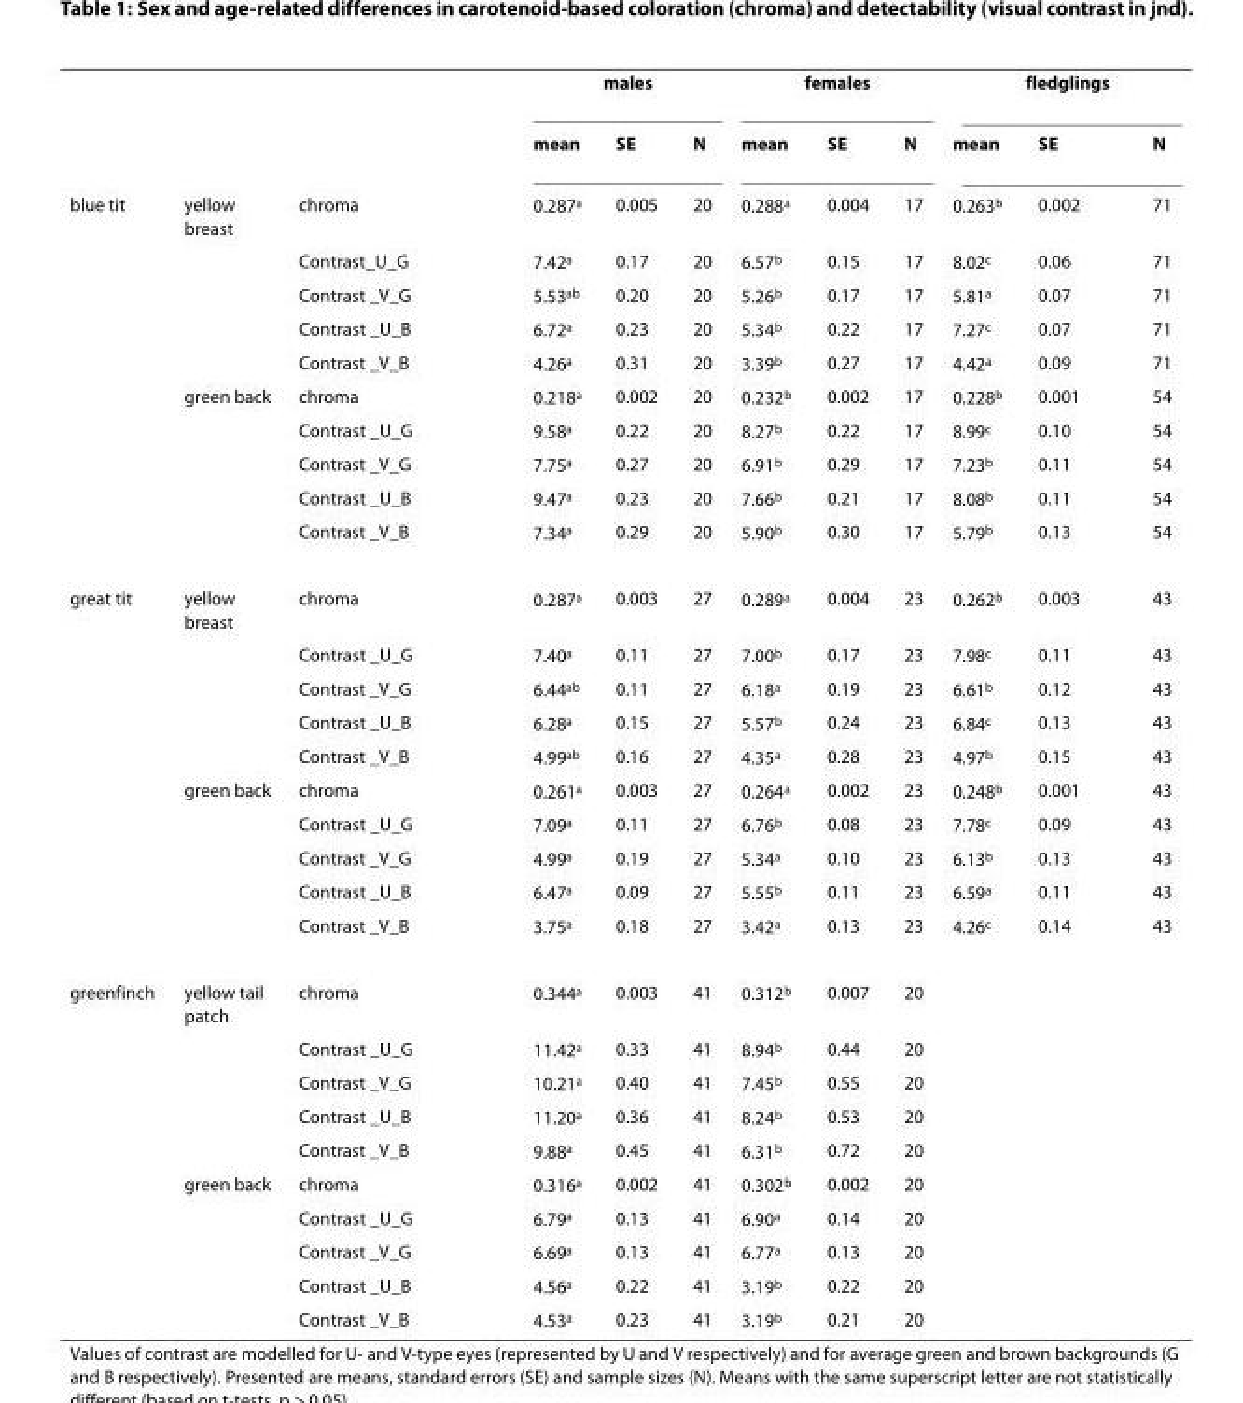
<table><thead><tr><td rowspan="2"></td><td rowspan="2"></td><td rowspan="2"></td><td colspan="3">males</td><td colspan="3">females</td><td colspan="3">fledglings</td></tr><tr><td>mean</td><td>SE</td><td>N</td><td>mean</td><td>SE</td><td>N</td><td>mean</td><td>SE</td><td>N</td></tr></thead><tbody><tr><td rowspan="10">blue tit</td><td>yellow breast</td><td>chroma</td><td>0.287<sup>a</sup></td><td>0.005</td><td>20</td><td>0.288<sup>a</sup></td><td>0.004</td><td>17</td><td>0.263<sup>b</sup></td><td>0.002</td><td>71</td></tr><tr><td></td><td>Contrast_U_G</td><td>7.42<sup>a</sup></td><td>0.17</td><td>20</td><td>6.57<sup>b</sup></td><td>0.15</td><td>17</td><td>8.02<sup>c</sup></td><td>0.06</td><td>71</td></tr><tr><td></td><td>Contrast _V_G</td><td>5.53<sup>ab</sup></td><td>0.20</td><td>20</td><td>5.26<sup>b</sup></td><td>0.17</td><td>17</td><td>5.81<sup>a</sup></td><td>0.07</td><td>71</td></tr><tr><td></td><td>Contrast _U_B</td><td>6.72<sup>a</sup></td><td>0.23</td><td>20</td><td>5.34<sup>b</sup></td><td>0.22</td><td>17</td><td>7.27<sup>c</sup></td><td>0.07</td><td>71</td></tr><tr><td></td><td>Contrast _V_B</td><td>4.26<sup>a</sup></td><td>0.31</td><td>20</td><td>3.39<sup>b</sup></td><td>0.27</td><td>17</td><td>4.42<sup>a</sup></td><td>0.09</td><td>71</td></tr><tr><td>green back</td><td>chroma</td><td>0.218<sup>a</sup></td><td>0.002</td><td>20</td><td>0.232<sup>b</sup></td><td>0.002</td><td>17</td><td>0.228<sup>b</sup></td><td>0.001</td><td>54</td></tr><tr><td></td><td>Contrast _U_G</td><td>9.58<sup>a</sup></td><td>0.22</td><td>20</td><td>8.27<sup>b</sup></td><td>0.22</td><td>17</td><td>8.99<sup>c</sup></td><td>0.10</td><td>54</td></tr><tr><td></td><td>Contrast _V_G</td><td>7.75<sup>a</sup></td><td>0.27</td><td>20</td><td>6.91<sup>b</sup></td><td>0.29</td><td>17</td><td>7.23<sup>b</sup></td><td>0.11</td><td>54</td></tr><tr><td></td><td>Contrast _U_B</td><td>9.47<sup>a</sup></td><td>0.23</td><td>20</td><td>7.66<sup>b</sup></td><td>0.21</td><td>17</td><td>8.08<sup>b</sup></td><td>0.11</td><td>54</td></tr><tr><td></td><td>Contrast _V_B</td><td>7.34<sup>a</sup></td><td>0.29</td><td>20</td><td>5.90<sup>b</sup></td><td>0.30</td><td>17</td><td>5.79<sup>b</sup></td><td>0.13</td><td>54</td></tr><tr><td rowspan="10">great tit</td><td>yellow breast</td><td>chroma</td><td>0.287<sup>a</sup></td><td>0.003</td><td>27</td><td>0.289<sup>a</sup></td><td>0.004</td><td>23</td><td>0.262<sup>b</sup></td><td>0.003</td><td>43</td></tr><tr><td></td><td>Contrast _U_G</td><td>7.40<sup>a</sup></td><td>0.11</td><td>27</td><td>7.00<sup>b</sup></td><td>0.17</td><td>23</td><td>7.98<sup>c</sup></td><td>0.11</td><td>43</td></tr><tr><td></td><td>Contrast _V_G</td><td>6.44<sup>ab</sup></td><td>0.11</td><td>27</td><td>6.18<sup>a</sup></td><td>0.19</td><td>23</td><td>6.61<sup>b</sup></td><td>0.12</td><td>43</td></tr><tr><td></td><td>Contrast _U_B</td><td>6.28<sup>a</sup></td><td>0.15</td><td>27</td><td>5.57<sup>b</sup></td><td>0.24</td><td>23</td><td>6.84<sup>c</sup></td><td>0.13</td><td>43</td></tr><tr><td></td><td>Contrast _V_B</td><td>4.99<sup>ab</sup></td><td>0.16</td><td>27</td><td>4.35<sup>a</sup></td><td>0.28</td><td>23</td><td>4.97<sup>b</sup></td><td>0.15</td><td>43</td></tr><tr><td>green back</td><td>chroma</td><td>0.261<sup>a</sup></td><td>0.003</td><td>27</td><td>0.264<sup>a</sup></td><td>0.002</td><td>23</td><td>0.248<sup>b</sup></td><td>0.001</td><td>43</td></tr><tr><td></td><td>Contrast _U_G</td><td>7.09<sup>a</sup></td><td>0.11</td><td>27</td><td>6.76<sup>b</sup></td><td>0.08</td><td>23</td><td>7.78<sup>c</sup></td><td>0.09</td><td>43</td></tr><tr><td></td><td>Contrast _V_G</td><td>4.99<sup>a</sup></td><td>0.19</td><td>27</td><td>5.34<sup>a</sup></td><td>0.10</td><td>23</td><td>6.13<sup>b</sup></td><td>0.13</td><td>43</td></tr><tr><td></td><td>Contrast _U_B</td><td>6.47<sup>a</sup></td><td>0.09</td><td>27</td><td>5.55<sup>b</sup></td><td>0.11</td><td>23</td><td>6.59<sup>a</sup></td><td>0.11</td><td>43</td></tr><tr><td></td><td>Contrast _V_B</td><td>3.75<sup>a</sup></td><td>0.18</td><td>27</td><td>3.42<sup>a</sup></td><td>0.13</td><td>23</td><td>4.26<sup>c</sup></td><td>0.14</td><td>43</td></tr><tr><td rowspan="10">greenfinch</td><td>yellow tail patch</td><td>chroma</td><td>0.344<sup>a</sup></td><td>0.003</td><td>41</td><td>0.312<sup>b</sup></td><td>0.007</td><td>20</td><td></td><td></td><td></td></tr><tr><td></td><td>Contrast _U_G</td><td>11.42<sup>a</sup></td><td>0.33</td><td>41</td><td>8.94<sup>b</sup></td><td>0.44</td><td>20</td><td></td><td></td><td></td></tr><tr><td></td><td>Contrast _V_G</td><td>10.21<sup>a</sup></td><td>0.40</td><td>41</td><td>7.45<sup>b</sup></td><td>0.55</td><td>20</td><td></td><td></td><td></td></tr><tr><td></td><td>Contrast _U_B</td><td>11.20<sup>a</sup></td><td>0.36</td><td>41</td><td>8.24<sup>b</sup></td><td>0.53</td><td>20</td><td></td><td></td><td></td></tr><tr><td></td><td>Contrast _V_B</td><td>9.88<sup>a</sup></td><td>0.45</td><td>41</td><td>6.31<sup>b</sup></td><td>0.72</td><td>20</td><td></td><td></td><td></td></tr><tr><td>green back</td><td>chroma</td><td>0.316<sup>a</sup></td><td>0.002</td><td>41</td><td>0.302<sup>b</sup></td><td>0.002</td><td>20</td><td></td><td></td><td></td></tr><tr><td></td><td>Contrast _U_G</td><td>6.79<sup>a</sup></td><td>0.13</td><td>41</td><td>6.90<sup>a</sup></td><td>0.14</td><td>20</td><td></td><td></td><td></td></tr><tr><td></td><td>Contrast _V_G</td><td>6.69<sup>a</sup></td><td>0.13</td><td>41</td><td>6.77<sup>a</sup></td><td>0.13</td><td>20</td><td></td><td></td><td></td></tr><tr><td></td><td>Contrast _U_B</td><td>4.56<sup>a</sup></td><td>0.22</td><td>41</td><td>3.19<sup>b</sup></td><td>0.22</td><td>20</td><td></td><td></td><td></td></tr><tr><td></td><td>Contrast _V_B</td><td>4.53<sup>a</sup></td><td>0.23</td><td>41</td><td>3.19<sup>b</sup></td><td>0.21</td><td>20</td><td></td><td></td><td></td></tr></tbody></table>